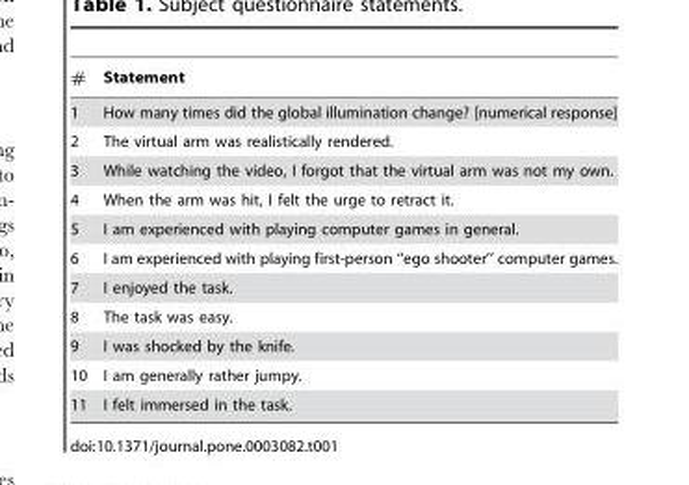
<table><thead><tr><td>#</td><td>Statement</td></tr></thead><tbody><tr><td>1</td><td>How many times did the global illumination change? [numerical response]</td></tr><tr><td>2</td><td>The virtual arm was realistically rendered.</td></tr><tr><td>3</td><td>While watching the video, I forgot that the virtual arm was not my own.</td></tr><tr><td>4</td><td>When the arm was hit, I felt the urge to retract it.</td></tr><tr><td>5</td><td>I am experienced with playing computer games in general.</td></tr><tr><td>6</td><td>I am experienced with playing first-person ‘‘ego shooter’’ computer games.</td></tr><tr><td>7</td><td>I enjoyed the task.</td></tr><tr><td>8</td><td>The task was easy.</td></tr><tr><td>9</td><td>I was shocked by the knife.</td></tr><tr><td>10</td><td>I am generally rather jumpy.</td></tr><tr><td>11</td><td>I felt immersed in the task.</td></tr></tbody></table>